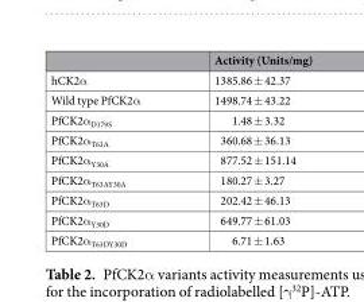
<table><thead><tr><td></td><td>Activity (Units/mg)</td></tr></thead><tbody><tr><td>hCK2α</td><td>1385.86 ± 42.37</td></tr><tr><td>Wild type PfCK2α</td><td>1498.74 ± 43.22</td></tr><tr><td>PfCK2α<sub>D179S</sub></td><td>1.48 ± 3.32</td></tr><tr><td>PfCK2α<sub>T63A</sub></td><td>360.68 ± 36.13</td></tr><tr><td>PfCK2α<sub>Y30A</sub></td><td>877.52 ± 151.14</td></tr><tr><td>PfCK2α<sub>T63AY30A</sub></td><td>180.27 ± 3.27</td></tr><tr><td>PfCK2α<sub>T63D</sub></td><td>202.42 ± 46.13</td></tr><tr><td>PfCK2α<sub>Y30D</sub></td><td>649.77 ± 61.03</td></tr><tr><td>PfCK2α<sub>T63DY30D</sub></td><td>6.71 ± 1.63</td></tr></tbody></table>